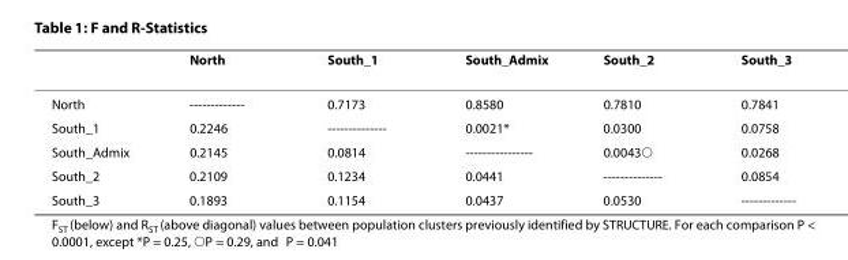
<table><thead><tr><td></td><td>North</td><td>South_1</td><td>South_Admix</td><td>South_2</td><td>South_3</td></tr></thead><tbody><tr><td>North</td><td>-------------</td><td>0.7173</td><td>0.8580</td><td>0.7810</td><td>0.7841</td></tr><tr><td>South_1</td><td>0.2246</td><td>--------------</td><td>0.0021*</td><td>0.0300</td><td>0.0758</td></tr><tr><td>South_Admix</td><td>0.2145</td><td>0.0814</td><td>----------------</td><td>0.0043<sup>○</sup></td><td>0.0268<sup>∇</sup></td></tr><tr><td>South_2</td><td>0.2109</td><td>0.1234</td><td>0.0441</td><td>--------------</td><td>0.0854</td></tr><tr><td>South_3</td><td>0.1893</td><td>0.1154</td><td>0.0437</td><td>0.0530</td><td>-------------</td></tr></tbody></table>